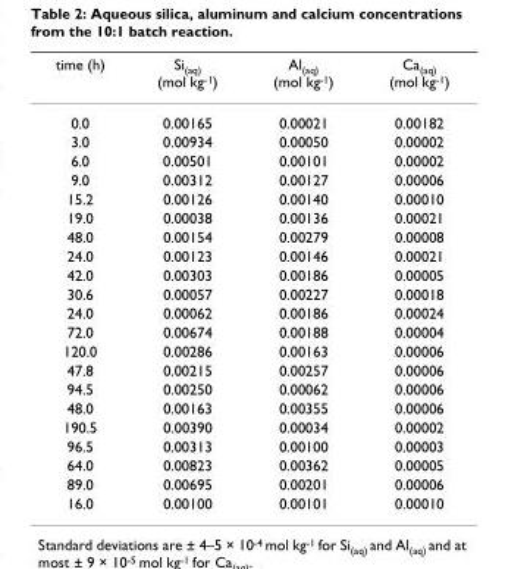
<table><thead><tr><td>time (h)</td><td>Si<sub>(aq)</sub> (mol kg<sup>-1</sup>)</td><td>Al<sub>(aq)</sub> (mol kg<sup>-1</sup>)</td><td>Ca<sub>(aq)</sub> (mol kg<sup>-1</sup>)</td></tr></thead><tbody><tr><td>0.0</td><td>0.00165</td><td>0.00021</td><td>0.00182</td></tr><tr><td>3.0</td><td>0.00934</td><td>0.00050</td><td>0.00002</td></tr><tr><td>6.0</td><td>0.00501</td><td>0.00101</td><td>0.00002</td></tr><tr><td>9.0</td><td>0.00312</td><td>0.00127</td><td>0.00006</td></tr><tr><td>15.2</td><td>0.00126</td><td>0.00140</td><td>0.00010</td></tr><tr><td>19.0</td><td>0.00038</td><td>0.00136</td><td>0.00021</td></tr><tr><td>48.0</td><td>0.00154</td><td>0.00279</td><td>0.00008</td></tr><tr><td>24.0</td><td>0.00123</td><td>0.00146</td><td>0.00021</td></tr><tr><td>42.0</td><td>0.00303</td><td>0.00186</td><td>0.00005</td></tr><tr><td>30.6</td><td>0.00057</td><td>0.00227</td><td>0.00018</td></tr><tr><td>24.0</td><td>0.00062</td><td>0.00186</td><td>0.00024</td></tr><tr><td>72.0</td><td>0.00674</td><td>0.00188</td><td>0.00004</td></tr><tr><td>120.0</td><td>0.00286</td><td>0.00163</td><td>0.00006</td></tr><tr><td>47.8</td><td>0.00215</td><td>0.00257</td><td>0.00006</td></tr><tr><td>94.5</td><td>0.00250</td><td>0.00062</td><td>0.00006</td></tr><tr><td>48.0</td><td>0.00163</td><td>0.00355</td><td>0.00006</td></tr><tr><td>190.5</td><td>0.00390</td><td>0.00034</td><td>0.00002</td></tr><tr><td>96.5</td><td>0.00313</td><td>0.00100</td><td>0.00003</td></tr><tr><td>64.0</td><td>0.00823</td><td>0.00362</td><td>0.00005</td></tr><tr><td>89.0</td><td>0.00695</td><td>0.00201</td><td>0.00006</td></tr><tr><td>16.0</td><td>0.00100</td><td>0.00101</td><td>0.00010</td></tr></tbody></table>